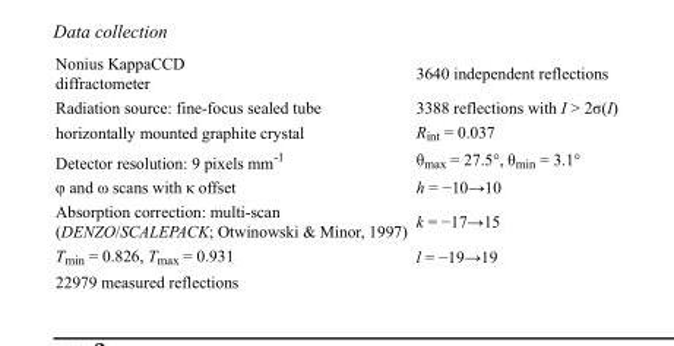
<table><tbody><tr><td>Nonius KappaCCD diffractometer</td><td>3640 independent reflections</td></tr><tr><td>Radiation source: fine-focus sealed tube</td><td>3388 reflections with I &gt; 2σ(I)</td></tr><tr><td>horizontally mounted graphite crystal</td><td>R<sub>int</sub> = 0.037</td></tr><tr><td>Detector resolution: 9 pixels mm<sup>-1</sup></td><td>θ<sub>max</sub> = 27.5°, θ<sub>min</sub> = 3.1°</td></tr><tr><td>φ and ω scans with κ offset</td><td>h = −10→10</td></tr><tr><td>Absorption correction: multi-scan (DENZO/SCALEPACK; Otwinowski &amp; Minor, 1997)</td><td>k = −17→15</td></tr><tr><td>T<sub>min</sub> = 0.826, T<sub>max</sub> = 0.931</td><td>l = −19→19</td></tr><tr><td>22979 measured reflections</td><td></td></tr></tbody></table>